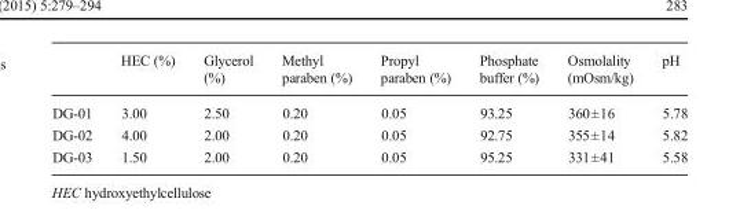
<table><thead><tr><td></td><td>HEC (%)</td><td>Glycerol (%)</td><td>Methyl paraben (%)</td><td>Propyl paraben (%)</td><td>Phosphate buffer (%)</td><td>Osmolality (mOsm/kg)</td><td>pH</td></tr></thead><tbody><tr><td>DG-01</td><td>3.00</td><td>2.50</td><td>0.20</td><td>0.05</td><td>93.25</td><td>360±16</td><td>5.78</td></tr><tr><td>DG-02</td><td>4.00</td><td>2.00</td><td>0.20</td><td>0.05</td><td>92.75</td><td>355±14</td><td>5.82</td></tr><tr><td>DG-03</td><td>1.50</td><td>2.00</td><td>0.20</td><td>0.05</td><td>95.25</td><td>331±41</td><td>5.58</td></tr></tbody></table>